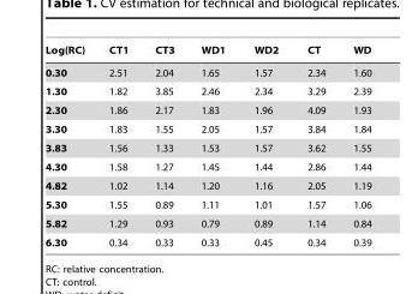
<table><thead><tr><td>Log(RC)</td><td>CT1</td><td>CT3</td><td>WD1</td><td>WD2</td><td>CT</td><td>WD</td></tr></thead><tbody><tr><td>0.30</td><td>2.51</td><td>2.04</td><td>1.65</td><td>1.57</td><td>2.34</td><td>1.60</td></tr><tr><td>1.30</td><td>1.82</td><td>3.85</td><td>2.46</td><td>2.34</td><td>3.29</td><td>2.39</td></tr><tr><td>2.30</td><td>1.86</td><td>2.17</td><td>1.83</td><td>1.96</td><td>4.09</td><td>1.93</td></tr><tr><td>3.30</td><td>1.83</td><td>1.55</td><td>2.05</td><td>1.57</td><td>3.84</td><td>1.84</td></tr><tr><td>3.83</td><td>1.56</td><td>1.33</td><td>1.53</td><td>1.57</td><td>3.62</td><td>1.55</td></tr><tr><td>4.30</td><td>1.58</td><td>1.27</td><td>1.45</td><td>1.44</td><td>2.86</td><td>1.44</td></tr><tr><td>4.82</td><td>1.02</td><td>1.14</td><td>1.20</td><td>1.16</td><td>2.05</td><td>1.19</td></tr><tr><td>5.30</td><td>1.55</td><td>0.89</td><td>1.11</td><td>1.01</td><td>1.57</td><td>1.06</td></tr><tr><td>5.82</td><td>1.29</td><td>0.93</td><td>0.79</td><td>0.89</td><td>1.14</td><td>0.84</td></tr><tr><td>6.30</td><td>0.34</td><td>0.33</td><td>0.33</td><td>0.45</td><td>0.34</td><td>0.39</td></tr></tbody></table>